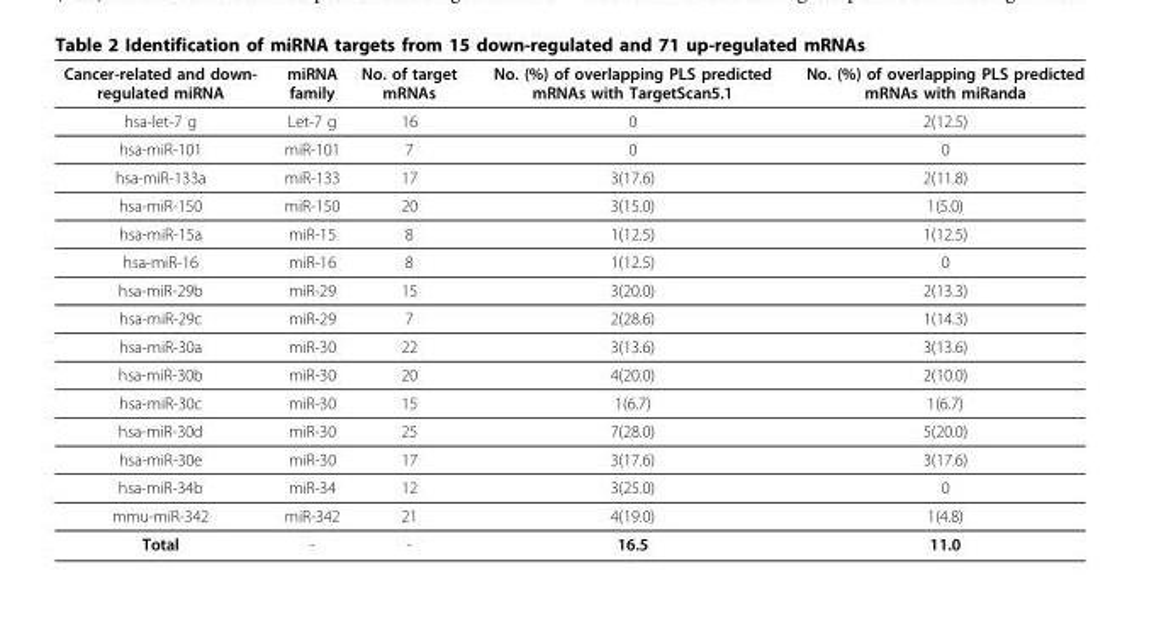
<table><thead><tr><td>Cancer-related and down- regulated miRNA</td><td>miRNA family</td><td>No. of target mRNAs</td><td>No. (%) of overlapping PLS predicted mRNAs with TargetScan5.1</td><td>No. (%) of overlapping PLS predicted mRNAs with miRanda</td></tr></thead><tbody><tr><td>hsa-let-7 g</td><td>Let-7 g</td><td>16</td><td>0</td><td>2(12.5)</td></tr><tr><td>hsa-miR-101</td><td>miR-101</td><td>7</td><td>0</td><td>0</td></tr><tr><td>hsa-miR-133a</td><td>miR-133</td><td>17</td><td>3(17.6)</td><td>2(11.8)</td></tr><tr><td>hsa-miR-150</td><td>miR-150</td><td>20</td><td>3(15.0)</td><td>1(5.0)</td></tr><tr><td>hsa-miR-15a</td><td>miR-15</td><td>8</td><td>1(12.5)</td><td>1(12.5)</td></tr><tr><td>hsa-miR-16</td><td>miR-16</td><td>8</td><td>1(12.5)</td><td>0</td></tr><tr><td>hsa-miR-29b</td><td>miR-29</td><td>15</td><td>3(20.0)</td><td>2(13.3)</td></tr><tr><td>hsa-miR-29c</td><td>miR-29</td><td>7</td><td>2(28.6)</td><td>1(14.3)</td></tr><tr><td>hsa-miR-30a</td><td>miR-30</td><td>22</td><td>3(13.6)</td><td>3(13.6)</td></tr><tr><td>hsa-miR-30b</td><td>miR-30</td><td>20</td><td>4(20.0)</td><td>2(10.0)</td></tr><tr><td>hsa-miR-30c</td><td>miR-30</td><td>15</td><td>1(6.7)</td><td>1(6.7)</td></tr><tr><td>hsa-miR-30d</td><td>miR-30</td><td>25</td><td>7(28.0)</td><td>5(20.0)</td></tr><tr><td>hsa-miR-30e</td><td>miR-30</td><td>17</td><td>3(17.6)</td><td>3(17.6)</td></tr><tr><td>hsa-miR-34b</td><td>miR-34</td><td>12</td><td>3(25.0)</td><td>0</td></tr><tr><td>mmu-miR-342</td><td>miR-342</td><td>21</td><td>4(19.0)</td><td>1(4.8)</td></tr><tr><td>Total</td><td>-</td><td>-</td><td>16.5</td><td>11.0</td></tr></tbody></table>